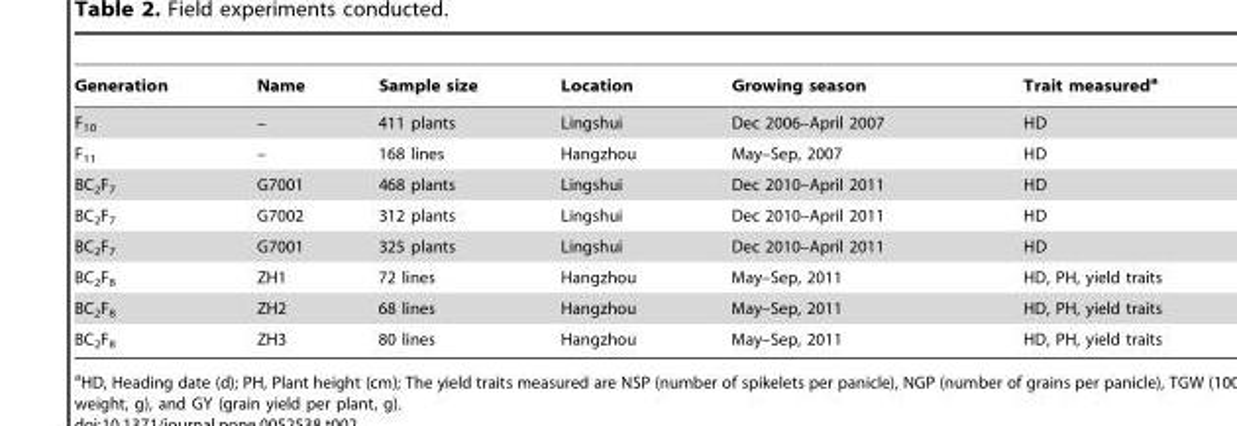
<table><thead><tr><td>Generation</td><td>Name</td><td>Sample size</td><td>Location</td><td>Growing season</td><td>Trait measured<sup>a</sup></td></tr></thead><tbody><tr><td>F<sub>10</sub></td><td>–</td><td>411 plants</td><td>Lingshui</td><td>Dec 2006–April 2007</td><td>HD</td></tr><tr><td>F<sub>11</sub></td><td>–</td><td>168 lines</td><td>Hangzhou</td><td>May–Sep, 2007</td><td>HD</td></tr><tr><td>BC<sub>2</sub>F<sub>7</sub></td><td>G7001</td><td>468 plants</td><td>Lingshui</td><td>Dec 2010–April 2011</td><td>HD</td></tr><tr><td>BC<sub>2</sub>F<sub>7</sub></td><td>G7002</td><td>312 plants</td><td>Lingshui</td><td>Dec 2010–April 2011</td><td>HD</td></tr><tr><td>BC<sub>2</sub>F<sub>7</sub></td><td>G7001</td><td>325 plants</td><td>Lingshui</td><td>Dec 2010–April 2011</td><td>HD</td></tr><tr><td>BC<sub>2</sub>F<sub>8</sub></td><td>ZH1</td><td>72 lines</td><td>Hangzhou</td><td>May–Sep, 2011</td><td>HD, PH, yield traits</td></tr><tr><td>BC<sub>2</sub>F<sub>8</sub></td><td>ZH2</td><td>68 lines</td><td>Hangzhou</td><td>May–Sep, 2011</td><td>HD, PH, yield traits</td></tr><tr><td>BC<sub>2</sub>F<sub>8</sub></td><td>ZH3</td><td>80 lines</td><td>Hangzhou</td><td>May–Sep, 2011</td><td>HD, PH, yield traits</td></tr></tbody></table>